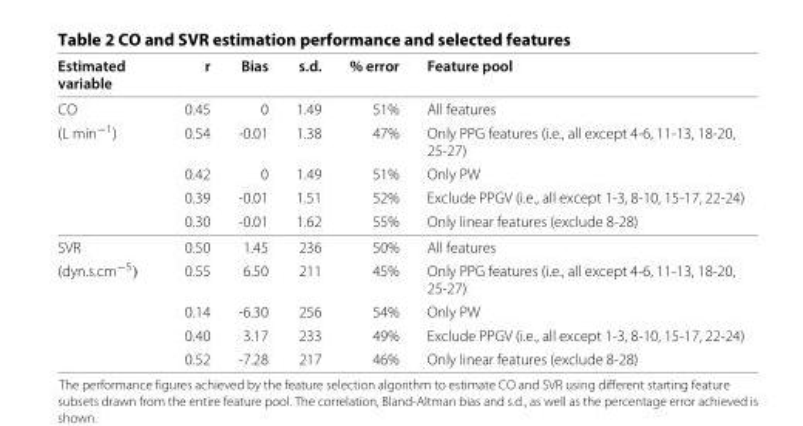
<table><thead><tr><td>Estimated variable</td><td>r</td><td>Bias</td><td>s.d.</td><td>% error</td><td>Feature pool</td></tr></thead><tbody><tr><td>CO</td><td>0.45</td><td>0</td><td>1.49</td><td>51%</td><td>All features</td></tr><tr><td rowspan="4">(L min<sup>−1</sup>)</td><td>0.54</td><td>-0.01</td><td>1.38</td><td>47%</td><td>Only PPG features (i.e., all except 4-6, 11-13, 18-20, 25-27)</td></tr><tr><td>0.42</td><td>0</td><td>1.49</td><td>51%</td><td>Only PW</td></tr><tr><td>0.39</td><td>-0.01</td><td>1.51</td><td>52%</td><td>Exclude PPGV (i.e., all except 1-3, 8-10, 15-17, 22-24)</td></tr><tr><td>0.30</td><td>-0.01</td><td>1.62</td><td>55%</td><td>Only linear features (exclude 8-28)</td></tr><tr><td>SVR</td><td>0.50</td><td>1.45</td><td>236</td><td>50%</td><td>All features</td></tr><tr><td rowspan="4">(dyn.s.cm<sup>−5</sup>)</td><td>0.55</td><td>6.50</td><td>211</td><td>45%</td><td>Only PPG features (i.e., all except 4-6, 11-13, 18-20, 25-27)</td></tr><tr><td>0.14</td><td>-6.30</td><td>256</td><td>54%</td><td>Only PW</td></tr><tr><td>0.40</td><td>3.17</td><td>233</td><td>49%</td><td>Exclude PPGV (i.e., all except 1-3, 8-10, 15-17, 22-24)</td></tr><tr><td>0.52</td><td>-7.28</td><td>217</td><td>46%</td><td>Only linear features (exclude 8-28)</td></tr></tbody></table>